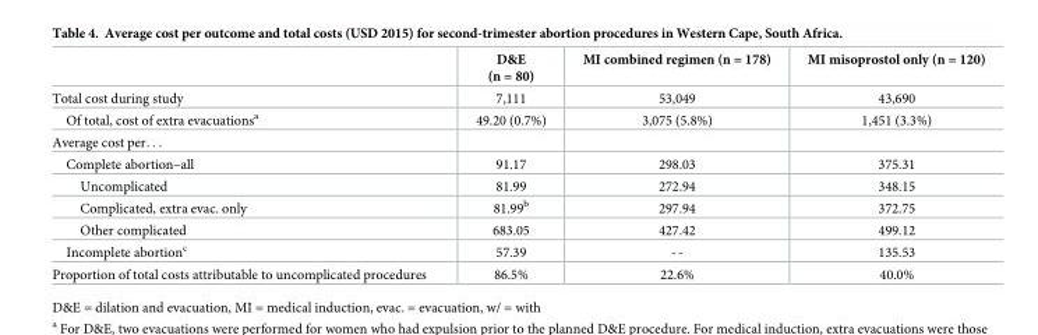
<table><thead><tr><td></td><td>D&amp;E (n = 80)</td><td>MI combined regimen (n = 178)</td><td>MI misoprostol only (n = 120)</td></tr></thead><tbody><tr><td>Total cost during study</td><td>7,111</td><td>53,049</td><td>43,690</td></tr><tr><td>Of total, cost of extra evacuations<sup>a</sup></td><td>49.20 (0.7%)</td><td>3,075 (5.8%)</td><td>1,451 (3.3%)</td></tr><tr><td colspan="4">Average cost per. . .</td></tr><tr><td>Complete abortion–all</td><td>91.17</td><td>298.03</td><td>375.31</td></tr><tr><td>Uncomplicated</td><td>81.99</td><td>272.94</td><td>348.15</td></tr><tr><td>Complicated, extra evac. only</td><td>81.99<sup>b</sup></td><td>297.94</td><td>372.75</td></tr><tr><td>Other complicated</td><td>683.05</td><td>427.42</td><td>499.12</td></tr><tr><td>Incomplete abortion<sup>c</sup></td><td>57.39</td><td>--</td><td>135.53</td></tr><tr><td>Proportion of total costs attributable to uncomplicated procedures</td><td>86.5%</td><td>22.6%</td><td>40.0%</td></tr></tbody></table>